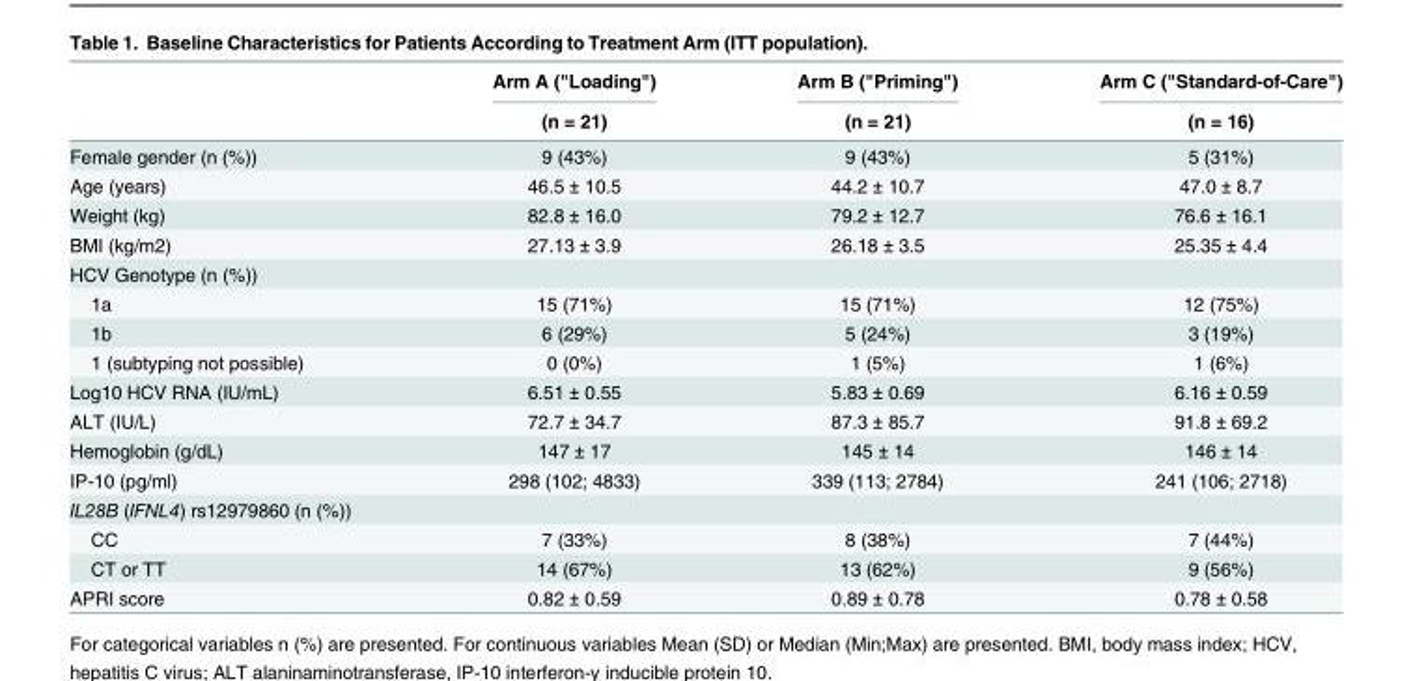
<table><thead><tr><td rowspan="2"></td><td rowspan="2">Arm A (&quot;Loading&quot;) (n = 21)</td><td rowspan="2">Arm B (&quot;Priming&quot;) (n = 21)</td><td rowspan="2">Arm C (&quot;Standard-of-Care&quot;) (n = 16)</td></tr><tr></tr></thead><tbody><tr><td>Female gender (n (%))</td><td>9 (43%)</td><td>9 (43%)</td><td>5 (31%)</td></tr><tr><td>Age (years)</td><td>46.5 ± 10.5</td><td>44.2 ± 10.7</td><td>47.0 ± 8.7</td></tr><tr><td>Weight (kg)</td><td>82.8 ± 16.0</td><td>79.2 ± 12.7</td><td>76.6 ± 16.1</td></tr><tr><td>BMI (kg/m2)</td><td>27.13 ± 3.9</td><td>26.18 ± 3.5</td><td>25.35 ± 4.4</td></tr><tr><td colspan="4">HCV Genotype (n (%))</td></tr><tr><td>1a</td><td>15 (71%)</td><td>15 (71%)</td><td>12 (75%)</td></tr><tr><td>1b</td><td>6 (29%)</td><td>5 (24%)</td><td>3 (19%)</td></tr><tr><td>1 (subtyping not possible)</td><td>0 (0%)</td><td>1 (5%)</td><td>1 (6%)</td></tr><tr><td>Log10 HCV RNA (IU/mL)</td><td>6.51 ± 0.55</td><td>5.83 ± 0.69</td><td>6.16 ± 0.59</td></tr><tr><td>ALT (IU/L)</td><td>72.7 ± 34.7</td><td>87.3 ± 85.7</td><td>91.8 ± 69.2</td></tr><tr><td>Hemoglobin (g/dL)</td><td>147 ± 17</td><td>145 ± 14</td><td>146 ± 14</td></tr><tr><td>IP-10 (pg/ml)</td><td>298 (102; 4833)</td><td>339 (113; 2784)</td><td>241 (106; 2718)</td></tr><tr><td colspan="4">IL28B (IFNL4) rs12979860 (n (%))</td></tr><tr><td>CC</td><td>7 (33%)</td><td>8 (38%)</td><td>7 (44%)</td></tr><tr><td>CT or TT</td><td>14 (67%)</td><td>13 (62%)</td><td>9 (56%)</td></tr><tr><td>APRI score</td><td>0.82 ± 0.59</td><td>0.89 ± 0.78</td><td>0.78 ± 0.58</td></tr></tbody></table>